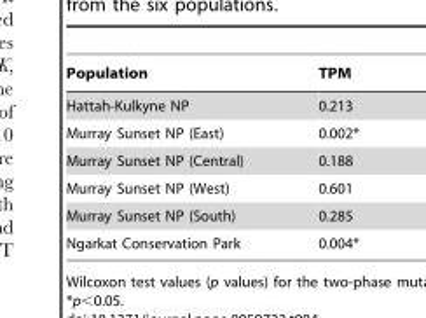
<table><thead><tr><td>Population</td><td>TPM</td></tr></thead><tbody><tr><td>Hattah-Kulkyne NP</td><td>0.213</td></tr><tr><td>Murray Sunset NP (East)</td><td>0.002*</td></tr><tr><td>Murray Sunset NP (Central)</td><td>0.188</td></tr><tr><td>Murray Sunset NP (West)</td><td>0.601</td></tr><tr><td>Murray Sunset NP (South)</td><td>0.285</td></tr><tr><td>Ngarkat Conservation Park</td><td>0.004*</td></tr></tbody></table>